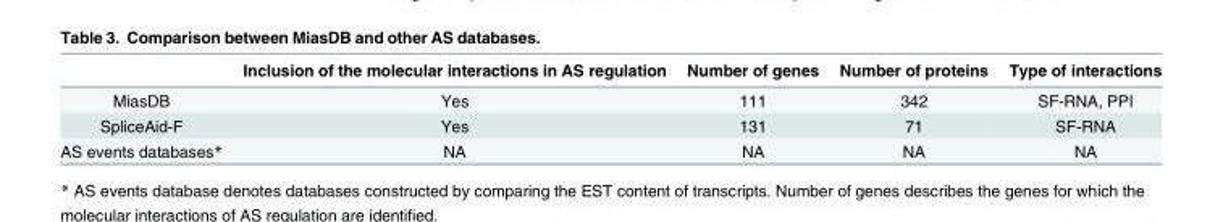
<table><thead><tr><td></td><td>Inclusion of the molecular interactions in AS regulation</td><td>Number of genes</td><td>Number of proteins</td><td>Type of interactions</td></tr></thead><tbody><tr><td>MiasDB</td><td>Yes</td><td>111</td><td>342</td><td>SF-RNA, PPI</td></tr><tr><td>SpliceAid-F</td><td>Yes</td><td>131</td><td>71</td><td>SF-RNA</td></tr><tr><td>AS events databases*</td><td>NA</td><td>NA</td><td>NA</td><td>NA</td></tr></tbody></table>